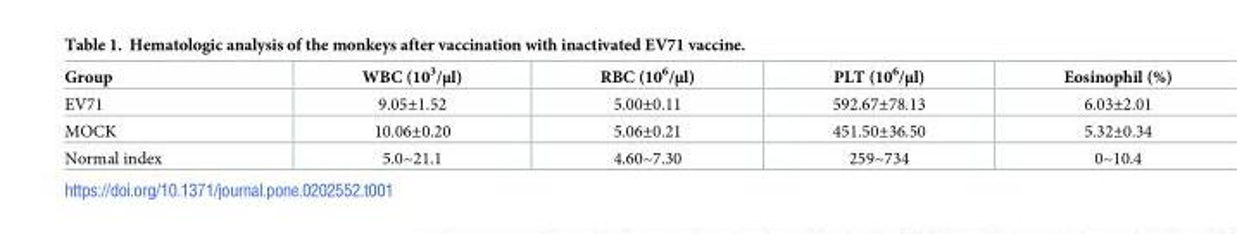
<table><thead><tr><td>Group</td><td>WBC (10<sup>3</sup>/μl)</td><td>RBC (10<sup>6</sup>/μl)</td><td>PLT (10<sup>6</sup>/μl)</td><td>Eosinophil (%)</td></tr></thead><tbody><tr><td>EV71</td><td>9.05±1.52</td><td>5.00±0.11</td><td>592.67±78.13</td><td>6.03±2.01</td></tr><tr><td>MOCK</td><td>10.06±0.20</td><td>5.06±0.21</td><td>451.50±36.50</td><td>5.32±0.34</td></tr><tr><td>Normal index</td><td>5.0~21.1</td><td>4.60~7.30</td><td>259~734</td><td>0~10.4</td></tr></tbody></table>